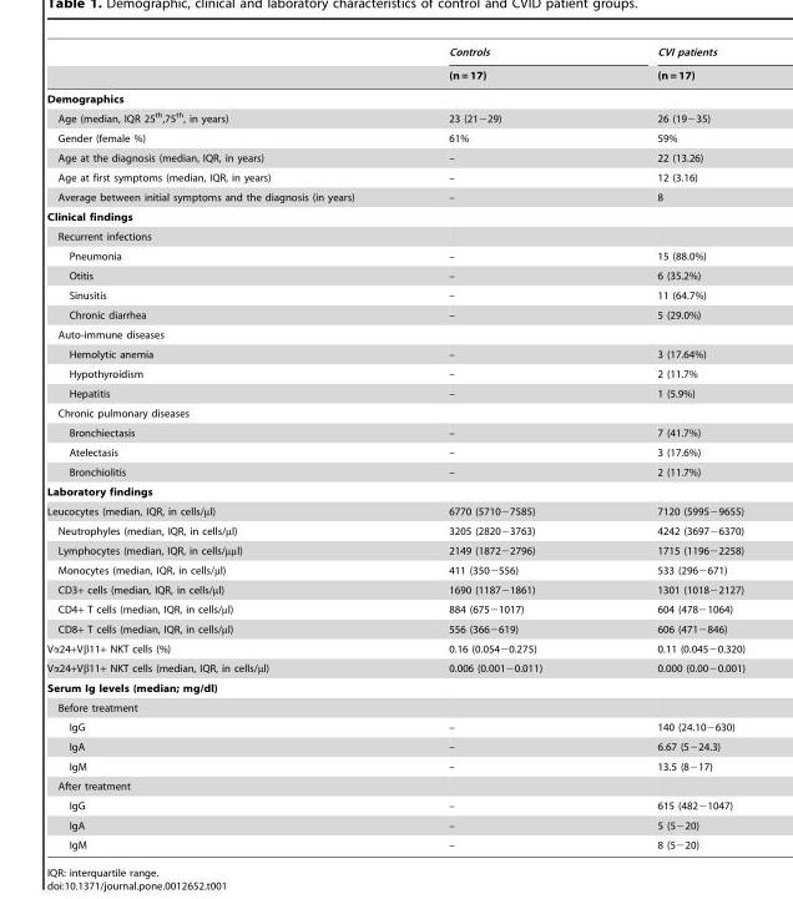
<table><thead><tr><td rowspan="2"></td><td rowspan="2">Controls (n = 17)</td><td rowspan="2">CVI patients (n = 17)</td></tr><tr></tr></thead><tbody><tr><td colspan="3">Demographics</td></tr><tr><td>Age (median, IQR 25<sup>th</sup>,75<sup>th</sup>, in years)</td><td>23 (21−29)</td><td>26 (19−35)</td></tr><tr><td>Gender (female %)</td><td>61%</td><td>59%</td></tr><tr><td>Age at the diagnosis (median, IQR, in years)</td><td>–</td><td>22 (13.26)</td></tr><tr><td>Age at first symptoms (median, IQR, in years)</td><td>–</td><td>12 (3.16)</td></tr><tr><td>Average between initial symptoms and the diagnosis (in years)</td><td>–</td><td>8</td></tr><tr><td colspan="3">Clinical findings</td></tr><tr><td colspan="3">Recurrent infections</td></tr><tr><td>Pneumonia</td><td>–</td><td>15 (88.0%)</td></tr><tr><td>Otitis</td><td>–</td><td>6 (35.2%)</td></tr><tr><td>Sinusitis</td><td>–</td><td>11 (64.7%)</td></tr><tr><td>Chronic diarrhea</td><td>–</td><td>5 (29.0%)</td></tr><tr><td colspan="3">Auto-immune diseases</td></tr><tr><td>Hemolytic anemia</td><td>–</td><td>3 (17.64%)</td></tr><tr><td>Hypothyroidism</td><td>–</td><td>2 (11.7%</td></tr><tr><td>Hepatitis</td><td>–</td><td>1 (5.9%)</td></tr><tr><td colspan="3">Chronic pulmonary diseases</td></tr><tr><td>Bronchiectasis</td><td>–</td><td>7 (41.7%)</td></tr><tr><td>Atelectasis</td><td>–</td><td>3 (17.6%)</td></tr><tr><td>Bronchiolitis</td><td>–</td><td>2 (11.7%)</td></tr><tr><td colspan="3">Laboratory findings</td></tr><tr><td>Leucocytes (median, IQR, in cells/µl)</td><td>6770 (5710−7585)</td><td>7120 (5995−9655)</td></tr><tr><td>Neutrophyles (median, IQR, in cells/µl)</td><td>3205 (2820−3763)</td><td>4242 (3697−6370)</td></tr><tr><td>Lymphocytes (median, IQR, in cells/µµl)</td><td>2149 (1872−2796)</td><td>1715 (1196−2258)</td></tr><tr><td>Monocytes (median, IQR, in cells/µl)</td><td>411 (350−556)</td><td>533 (296−671)</td></tr><tr><td>CD3+ cells (median, IQR, in cells/µl)</td><td>1690 (1187−1861)</td><td>1301 (1018−2127)</td></tr><tr><td>CD4+ T cells (median, IQR, in cells/µl)</td><td>884 (675−1017)</td><td>604 (478−1064)</td></tr><tr><td>CD8+ T cells (median, IQR, in cells/µl)</td><td>556 (366−619)</td><td>606 (471−846)</td></tr><tr><td>Vα24+Vβ11+ NKT cells (%)</td><td>0.16 (0.054−0.275)</td><td>0.11 (0.045−0.320)</td></tr><tr><td>Vα24+Vβ11+ NKT cells (median, IQR, in cells/µl)</td><td>0.006 (0.001−0.011)</td><td>0.000 (0.00−0.001)</td></tr><tr><td colspan="3">Serum Ig levels (median; mg/dl)</td></tr><tr><td colspan="3">Before treatment</td></tr><tr><td>IgG</td><td>–</td><td>140 (24.10−630)</td></tr><tr><td>IgA</td><td>–</td><td>6.67 (5−24.3)</td></tr><tr><td>IgM</td><td>–</td><td>13.5 (8−17)</td></tr><tr><td colspan="3">After treatment</td></tr><tr><td>IgG</td><td>–</td><td>615 (482−1047)</td></tr><tr><td>IgA</td><td>–</td><td>5 (5−20)</td></tr><tr><td>IgM</td><td>–</td><td>8 (5−20)</td></tr></tbody></table>